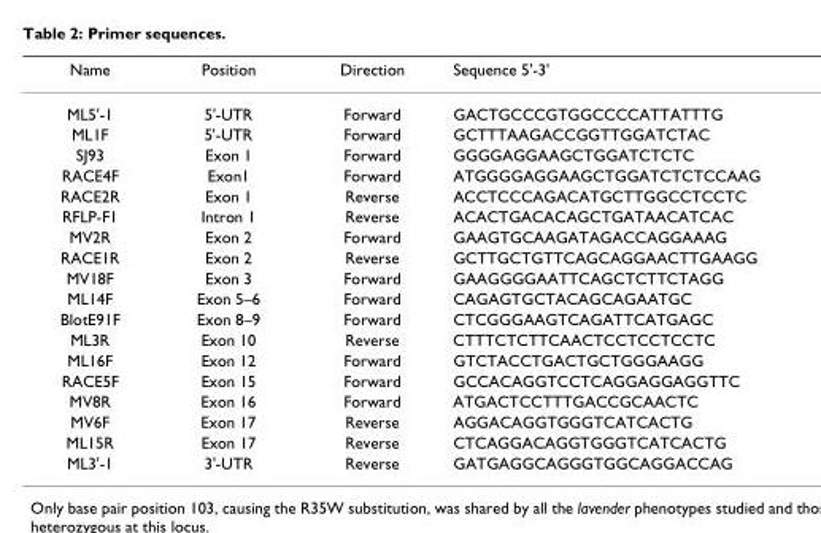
<table><thead><tr><td>Name</td><td>Position</td><td>Direction</td><td>Sequence 5&#x27;-3&#x27;</td></tr></thead><tbody><tr><td>ML5&#x27;-1</td><td>5&#x27;-UTR</td><td>Forward</td><td>GACTGCCCGTGGCCCCATTATTTG</td></tr><tr><td>ML1F</td><td>5&#x27;-UTR</td><td>Forward</td><td>GCTTTAAGACCGGTTGGATCTAC</td></tr><tr><td>SJ93</td><td>Exon 1</td><td>Forward</td><td>GGGGAGGAAGCTGGATCTCTC</td></tr><tr><td>RACE4F</td><td>Exon1</td><td>Forward</td><td>ATGGGGAGGAAGCTGGATCTCTCCAAG</td></tr><tr><td>RACE2R</td><td>Exon 1</td><td>Reverse</td><td>ACCTCCCAGACATGCTTGGCCTCCTC</td></tr><tr><td>RFLP-F1</td><td>Intron 1</td><td>Reverse</td><td>ACACTGACACAGCTGATAACATCAC</td></tr><tr><td>MV2R</td><td>Exon 2</td><td>Forward</td><td>GAAGTGCAAGATAGACCAGGAAAG</td></tr><tr><td>RACE1R</td><td>Exon 2</td><td>Reverse</td><td>GCTTGCTGTTCAGCAGGAACTTGAAGG</td></tr><tr><td>MV18F</td><td>Exon 3</td><td>Forward</td><td>GAAGGGGAATTCAGCTCTTCTAGG</td></tr><tr><td>ML14F</td><td>Exon 5–6</td><td>Forward</td><td>CAGAGTGCTACAGCAGAATGC</td></tr><tr><td>BlotE91F</td><td>Exon 8–9</td><td>Forward</td><td>CTCGGGAAGTCAGATTCATGAGC</td></tr><tr><td>ML3R</td><td>Exon 10</td><td>Reverse</td><td>CTTTCTCTTCAACTCCTCCTCCTC</td></tr><tr><td>ML16F</td><td>Exon 12</td><td>Forward</td><td>GTCTACCTGACTGCTGGGAAGG</td></tr><tr><td>RACE5F</td><td>Exon 15</td><td>Forward</td><td>GCCACAGGTCCTCAGGAGGAGGTTC</td></tr><tr><td>MV8R</td><td>Exon 16</td><td>Forward</td><td>ATGACTCCTTTGACCGCAACTC</td></tr><tr><td>MV6F</td><td>Exon 17</td><td>Reverse</td><td>AGGACAGGTGGGTCATCACTG</td></tr><tr><td>ML15R</td><td>Exon 17</td><td>Reverse</td><td>CTCAGGACAGGTGGGTCATCACTG</td></tr><tr><td>ML3&#x27;-1</td><td>3&#x27;-UTR</td><td>Reverse</td><td>GATGAGGCAGGGTGGCAGGACCAG</td></tr></tbody></table>